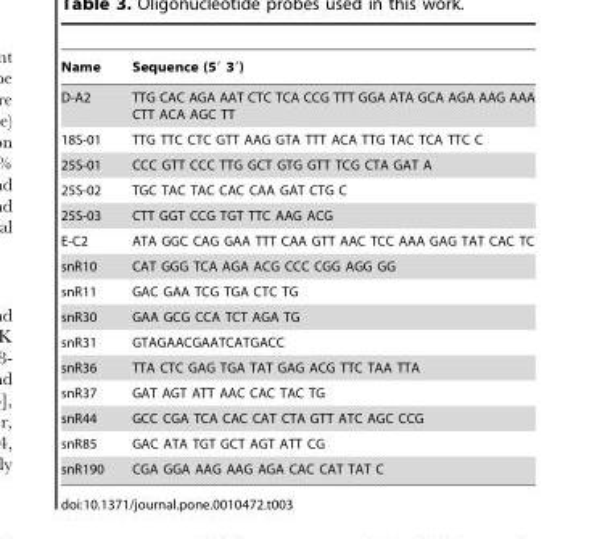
<table><thead><tr><td>Name</td><td>Sequence (5′ 3′)</td></tr></thead><tbody><tr><td>D-A2</td><td>TTG CAC AGA AAT CTC TCA CCG TTT GGA ATA GCA AGA AAG AAA CTT ACA AGC TT</td></tr><tr><td>18S-01</td><td>TTG TTC CTC GTT AAG GTA TTT ACA TTG TAC TCA TTC C</td></tr><tr><td>25S-01</td><td>CCC GTT CCC TTG GCT GTG GTT TCG CTA GAT A</td></tr><tr><td>25S-02</td><td>TGC TAC TAC CAC CAA GAT CTG C</td></tr><tr><td>25S-03</td><td>CTT GGT CCG TGT TTC AAG ACG</td></tr><tr><td>E-C2</td><td>ATA GGC CAG GAA TTT CAA GTT AAC TCC AAA GAG TAT CAC TC</td></tr><tr><td>snR10</td><td>CAT GGG TCA AGA ACG CCC CGG AGG GG</td></tr><tr><td>snR11</td><td>GAC GAA TCG TGA CTC TG</td></tr><tr><td>snR30</td><td>GAA GCG CCA TCT AGA TG</td></tr><tr><td>snR31</td><td>GTAGAACGAATCATGACC</td></tr><tr><td>snR36</td><td>TTA CTC GAG TGA TAT GAG ACG TTC TAA TTA</td></tr><tr><td>snR37</td><td>GAT AGT ATT AAC CAC TAC TG</td></tr><tr><td>snR44</td><td>GCC CGA TCA CAC CAT CTA GTT ATC AGC CCG</td></tr><tr><td>snR85</td><td>GAC ATA TGT GCT AGT ATT CG</td></tr><tr><td>snR190</td><td>CGA GGA AAG AAG AGA CAC CAT TAT C</td></tr></tbody></table>